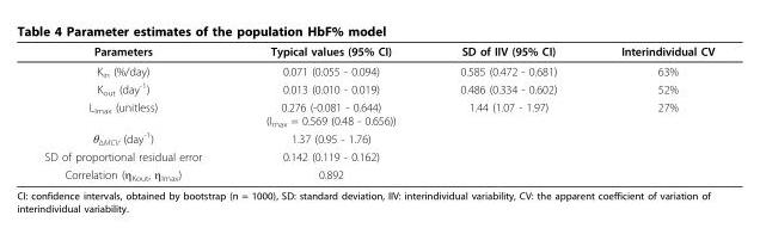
<table><thead><tr><td>Parameters</td><td>Typical values (95% CI)</td><td>SD of IIV (95% CI)</td><td>Interindividual CV</td></tr></thead><tbody><tr><td>K<sub>in</sub> (%/day)</td><td>0.071 (0.055 - 0.094)</td><td>0.585 (0.472 - 0.681)</td><td>63%</td></tr><tr><td>K<sub>out</sub> (day<sup>-1</sup>)</td><td>0.013 (0.010 - 0.019)</td><td>0.486 (0.334 - 0.602)</td><td>52%</td></tr><tr><td>L<sub>Imax</sub> (unitless)</td><td>0.276 (-0.081 - 0.644) (I<sub>max</sub> = 0.569 (0.48 - 0.656))</td><td>1.44 (1.07 - 1.97)</td><td>27%</td></tr><tr><td>θ<sub>ΔMCV</sub> (day<sup>-1</sup>)</td><td>1.37 (0.95 - 1.76)</td><td></td><td></td></tr><tr><td>SD of proportional residual error</td><td>0.142 (0.119 - 0.162)</td><td></td><td></td></tr><tr><td>Correlation (η<sub>Kout</sub>, η<sub>Imax</sub>)</td><td>0.892</td><td></td><td></td></tr></tbody></table>